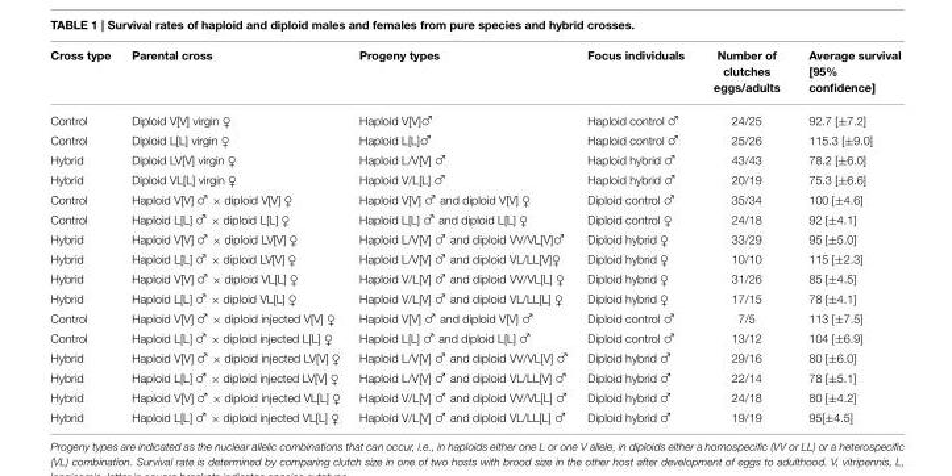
<table><thead><tr><td>Cross type</td><td>Parental cross</td><td>Progeny types</td><td>Focus individuals</td><td>Number of clutches eggs/adults</td><td>Average survival [95% confidence]</td></tr></thead><tbody><tr><td>Control</td><td>Diploid V[V] virgin ♀</td><td>Haploid V[V]♂</td><td>Haploid control ♂</td><td>24/25</td><td>92.7 [±7.2]</td></tr><tr><td>Control</td><td>Diploid L[L] virgin ♀</td><td>Haploid L[L]♂</td><td>Haploid control ♂</td><td>25/26</td><td>115.3 [±9.0]</td></tr><tr><td>Hybrid</td><td>Diploid LV[V] virgin ♀</td><td>Haploid L/V[V] ♂</td><td>Haploid hybrid ♂</td><td>43/43</td><td>78.2 [±6.0]</td></tr><tr><td>Hybrid</td><td>Diploid VL[L] virgin ♀</td><td>Haploid V/L[L] ♂</td><td>Haploid hybrid ♂</td><td>20/19</td><td>75.3 [±6.6]</td></tr><tr><td>Control</td><td>Haploid V[V] ♂ × diploid V[V] ♀</td><td>Haploid V[V] ♂ and diploid V[V] ♀</td><td>Diploid control ♂</td><td>35/34</td><td>100 [±4.6]</td></tr><tr><td>Control</td><td>Haploid L[L] ♂ × diploid L[L] ♀</td><td>Haploid L[L] ♂ and diploid L[L] ♀</td><td>Diploid control ♀</td><td>24/18</td><td>92 [±4.1]</td></tr><tr><td>Hybrid</td><td>Haploid V[V] ♂ × diploid LV[V] ♀</td><td>Haploid L/V[V] ♂ and diploid VV/VL[V]♂</td><td>Diploid hybrid ♀</td><td>33/29</td><td>95 [±5.0]</td></tr><tr><td>Hybrid</td><td>Haploid L[L] ♂ × diploid LV[V] ♀</td><td>Haploid L/V[V] ♂ and diploid VL/LL[V]♀</td><td>Diploid hybrid ♀</td><td>10/10</td><td>115 [±2.3]</td></tr><tr><td>Hybrid</td><td>Haploid V[V] ♂ × diploid VL[L] ♀</td><td>Haploid V/L[V] ♂ and diploid VV/VL[L] ♀</td><td>Diploid hybrid ♀</td><td>31/26</td><td>85 [±4.5]</td></tr><tr><td>Hybrid</td><td>Haploid L[L] ♂ × diploid VL[L] ♀</td><td>Haploid V/L[V] ♂ and diploid VL/LL[L] ♀</td><td>Diploid hybrid ♀</td><td>17/15</td><td>78 [±4.1]</td></tr><tr><td>Control</td><td>Haploid V[V] ♂ × diploid injected V[V] ♀</td><td>Haploid V[V] ♂ and diploid V[V] ♂</td><td>Diploid control ♂</td><td>7/5</td><td>113 [±7.5]</td></tr><tr><td>Control</td><td>Haploid L[L] ♂ × diploid injected L[L] ♀</td><td>Haploid L[L] ♂ and diploid L[L] ♂</td><td>Diploid control ♂</td><td>13/12</td><td>104 [±6.9]</td></tr><tr><td>Hybrid</td><td>Haploid V[V] ♂ × diploid injected LV[V] ♀</td><td>Haploid L/V[V] ♂ and diploid VV/VL[V] ♂</td><td>Diploid hybrid ♂</td><td>29/16</td><td>80 [±6.0]</td></tr><tr><td>Hybrid</td><td>Haploid L[L] ♂ × diploid injected LV[V] ♀</td><td>Haploid L/V[V] ♂ and diploid VL/LL[V] ♂</td><td>Diploid hybrid ♂</td><td>22/14</td><td>78 [±5.1]</td></tr><tr><td>Hybrid</td><td>Haploid V[V] ♂ × diploid injected VL[L] ♀</td><td>Haploid V/L[V] ♂ and diploid VV/VL[L] ♂</td><td>Diploid hybrid ♂</td><td>24/18</td><td>80 [±4.2]</td></tr><tr><td>Hybrid</td><td>Haploid L[L] ♂ × diploid injected VL[L] ♀</td><td>Haploid V/L[V] ♂ and diploid VL/LL[L] ♂</td><td>Diploid hybrid ♂</td><td>19/19</td><td>95[±4.5]</td></tr></tbody></table>